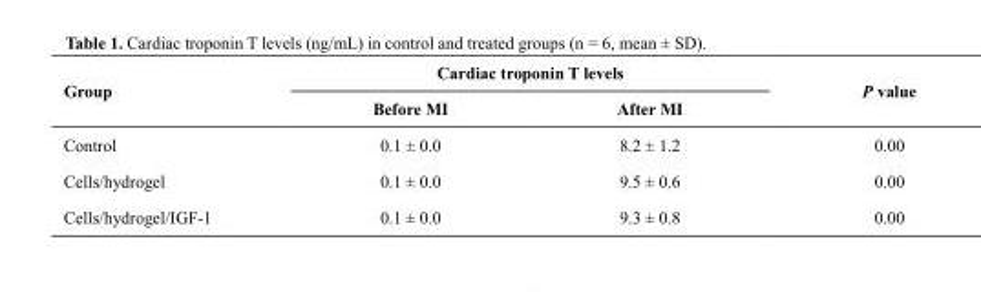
<table><thead><tr><td rowspan="2">Group</td><td colspan="2">Cardiac troponin T levels</td><td rowspan="2">P value</td></tr><tr><td>Before MI</td><td>After MI</td></tr></thead><tbody><tr><td>Control</td><td>0.1 ± 0.0</td><td>8.2 ± 1.2</td><td>0.00</td></tr><tr><td>Cells/hydrogel</td><td>0.1 ± 0.0</td><td>9.5 ± 0.6</td><td>0.00</td></tr><tr><td>Cells/hydrogel/IGF-1</td><td>0.1 ± 0.0</td><td>9.3 ± 0.8</td><td>0.00</td></tr></tbody></table>